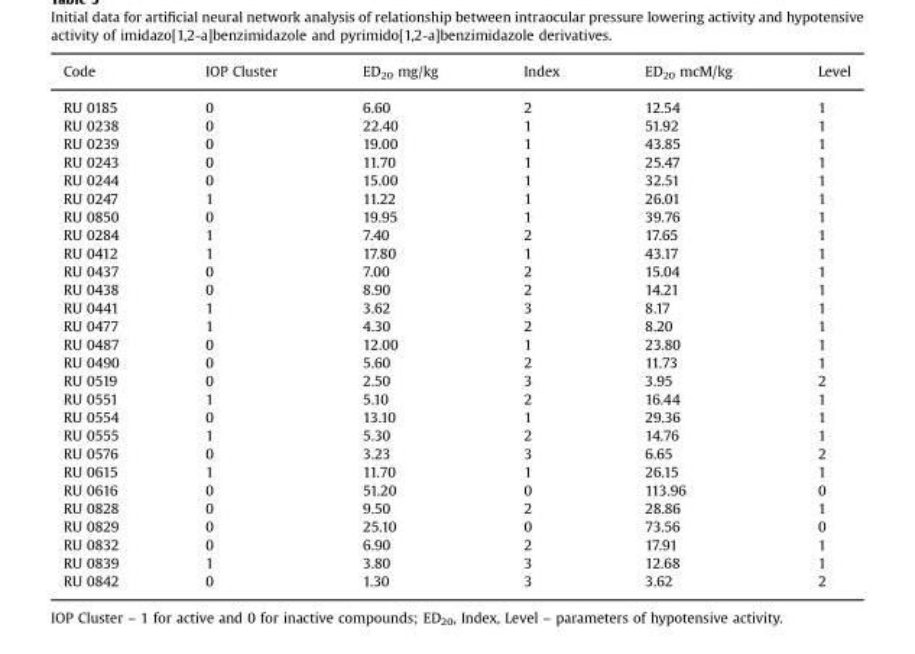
<table><thead><tr><td>Code</td><td>IOP Cluster</td><td>ED<sub>20</sub> mg/kg</td><td>Index</td><td>ED<sub>20</sub> mcM/kg</td><td>Level</td></tr></thead><tbody><tr><td>RU 0185</td><td>0</td><td>6.60</td><td>2</td><td>12.54</td><td>1</td></tr><tr><td>RU 0238</td><td>0</td><td>22.40</td><td>1</td><td>51.92</td><td>1</td></tr><tr><td>RU 0239</td><td>0</td><td>19.00</td><td>1</td><td>43.85</td><td>1</td></tr><tr><td>RU 0243</td><td>0</td><td>11.70</td><td>1</td><td>25.47</td><td>1</td></tr><tr><td>RU 0244</td><td>0</td><td>15.00</td><td>1</td><td>32.51</td><td>1</td></tr><tr><td>RU 0247</td><td>1</td><td>11.22</td><td>1</td><td>26.01</td><td>1</td></tr><tr><td>RU 0850</td><td>0</td><td>19.95</td><td>1</td><td>39.76</td><td>1</td></tr><tr><td>RU 0284</td><td>1</td><td>7.40</td><td>2</td><td>17.65</td><td>1</td></tr><tr><td>RU 0412</td><td>1</td><td>17.80</td><td>1</td><td>43.17</td><td>1</td></tr><tr><td>RU 0437</td><td>0</td><td>7.00</td><td>2</td><td>15.04</td><td>1</td></tr><tr><td>RU 0438</td><td>0</td><td>8.90</td><td>2</td><td>14.21</td><td>1</td></tr><tr><td>RU 0441</td><td>1</td><td>3.62</td><td>3</td><td>8.17</td><td>1</td></tr><tr><td>RU 0477</td><td>1</td><td>4.30</td><td>2</td><td>8.20</td><td>1</td></tr><tr><td>RU 0487</td><td>0</td><td>12.00</td><td>1</td><td>23.80</td><td>1</td></tr><tr><td>RU 0490</td><td>0</td><td>5.60</td><td>2</td><td>11.73</td><td>1</td></tr><tr><td>RU 0519</td><td>0</td><td>2.50</td><td>3</td><td>3.95</td><td>2</td></tr><tr><td>RU 0551</td><td>1</td><td>5.10</td><td>2</td><td>16.44</td><td>1</td></tr><tr><td>RU 0554</td><td>0</td><td>13.10</td><td>1</td><td>29.36</td><td>1</td></tr><tr><td>RU 0555</td><td>1</td><td>5.30</td><td>2</td><td>14.76</td><td>1</td></tr><tr><td>RU 0576</td><td>0</td><td>3.23</td><td>3</td><td>6.65</td><td>2</td></tr><tr><td>RU 0615</td><td>1</td><td>11.70</td><td>1</td><td>26.15</td><td>1</td></tr><tr><td>RU 0616</td><td>0</td><td>51.20</td><td>0</td><td>113.96</td><td>0</td></tr><tr><td>RU 0828</td><td>0</td><td>9.50</td><td>2</td><td>28.86</td><td>1</td></tr><tr><td>RU 0829</td><td>0</td><td>25.10</td><td>0</td><td>73.56</td><td>0</td></tr><tr><td>RU 0832</td><td>0</td><td>6.90</td><td>2</td><td>17.91</td><td>1</td></tr><tr><td>RU 0839</td><td>1</td><td>3.80</td><td>3</td><td>12.68</td><td>1</td></tr><tr><td>RU 0842</td><td>0</td><td>1.30</td><td>3</td><td>3.62</td><td>2</td></tr></tbody></table>